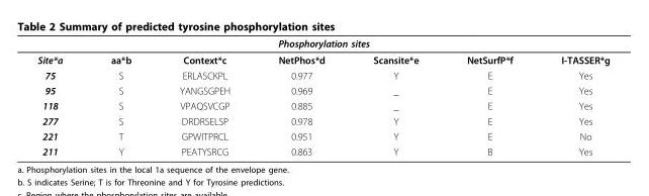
<table><thead><tr><td colspan="7">Phosphorylation sites</td></tr><tr><td>Site*a</td><td>aa*b</td><td>Context*c</td><td>NetPhos*d</td><td>Scansite*e</td><td>NetSurfP*f</td><td>I-TASSER*g</td></tr></thead><tbody><tr><td>75</td><td>S</td><td>ERLASCKPL</td><td>0.977</td><td>Y</td><td>E</td><td>Yes</td></tr><tr><td>95</td><td>S</td><td>YANGSGPEH</td><td>0.969</td><td>_</td><td>E</td><td>Yes</td></tr><tr><td>118</td><td>S</td><td>VPAQSVCGP</td><td>0.885</td><td>_</td><td>E</td><td>Yes</td></tr><tr><td>277</td><td>S</td><td>DRDRSELSP</td><td>0.978</td><td>Y</td><td>E</td><td>Yes</td></tr><tr><td>221</td><td>T</td><td>GPWITPRCL</td><td>0.951</td><td>Y</td><td>E</td><td>No</td></tr><tr><td>211</td><td>Y</td><td>PEATYSRCG</td><td>0.863</td><td>Y</td><td>B</td><td>Yes</td></tr></tbody></table>